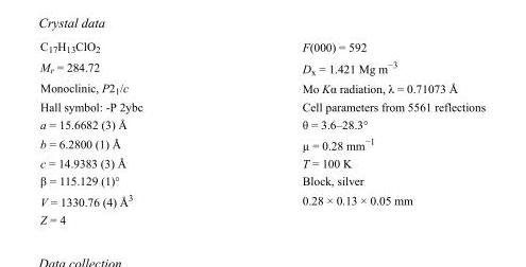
<table><tbody><tr><td>C<sub>17</sub>H<sub>13</sub>ClO<sub>2</sub></td><td>F(000) = 592</td></tr><tr><td>M<sub>r</sub> = 284.72</td><td>D<sub>x</sub> = 1.421 Mg m<sup>−3</sup></td></tr><tr><td>Monoclinic, P2<sub>1</sub>/c</td><td>Mo Kα radiation, λ = 0.71073 Å</td></tr><tr><td>Hall symbol: -P 2ybc</td><td>Cell parameters from 5561 reflections</td></tr><tr><td>a = 15.6682 (3) Å</td><td>θ = 3.6–28.3°</td></tr><tr><td>b = 6.2800 (1) Å</td><td>µ = 0.28 mm<sup>−1</sup></td></tr><tr><td>c = 14.9383 (3) Å</td><td>T = 100 K</td></tr><tr><td>β = 115.129 (1)°</td><td>Block, silver</td></tr><tr><td>V = 1330.76 (4) Å<sup>3</sup></td><td>0.28 × 0.13 × 0.05 mm</td></tr><tr><td>Z = 4</td><td></td></tr></tbody></table>